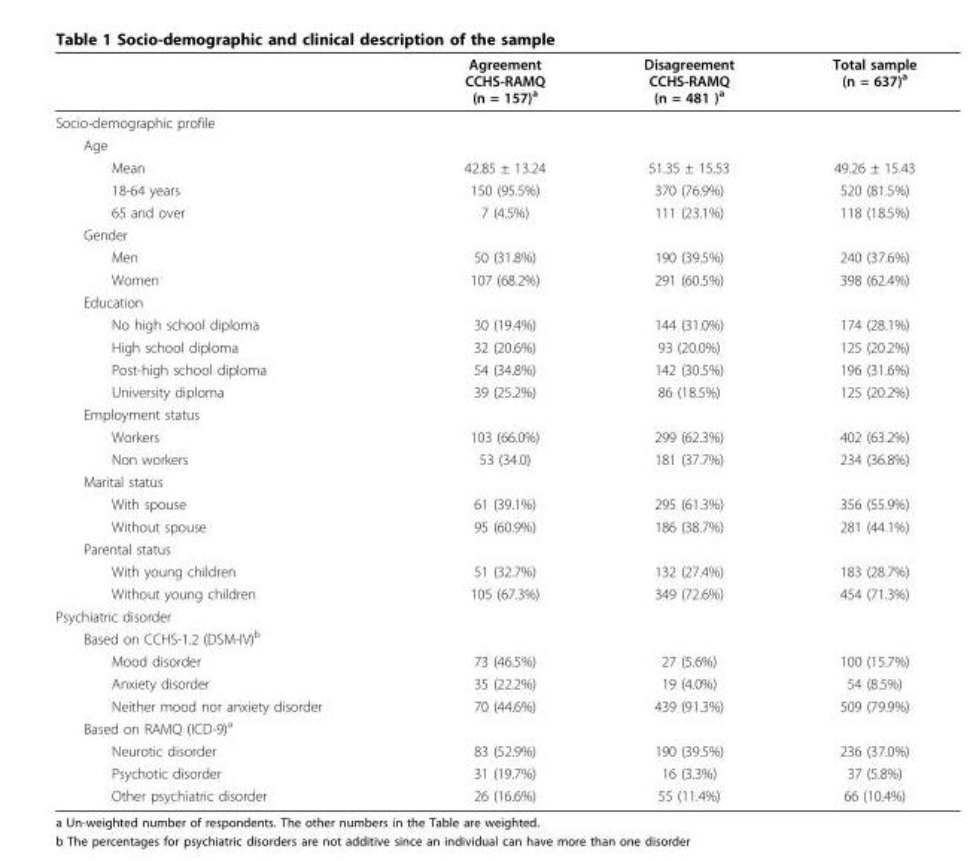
<table><thead><tr><td></td><td>Agreement CCHS-RAMQ (n = 157)<sup>a</sup></td><td>Disagreement CCHS-RAMQ (n = 481 )<sup>a</sup></td><td>Total sample (n = 637)<sup>a</sup></td></tr></thead><tbody><tr><td colspan="4">Socio-demographic profile</td></tr><tr><td colspan="4">Age</td></tr><tr><td>Mean</td><td>42.85 ± 13.24</td><td>51.35 ± 15.53</td><td>49.26 ± 15.43</td></tr><tr><td>18-64 years</td><td>150 (95.5%)</td><td>370 (76.9%)</td><td>520 (81.5%)</td></tr><tr><td>65 and over</td><td>7 (4.5%)</td><td>111 (23.1%)</td><td>118 (18.5%)</td></tr><tr><td colspan="4">Gender</td></tr><tr><td>Men</td><td>50 (31.8%)</td><td>190 (39.5%)</td><td>240 (37.6%)</td></tr><tr><td>Women</td><td>107 (68.2%)</td><td>291 (60.5%)</td><td>398 (62.4%)</td></tr><tr><td colspan="4">Education</td></tr><tr><td>No high school diploma</td><td>30 (19.4%)</td><td>144 (31.0%)</td><td>174 (28.1%)</td></tr><tr><td>High school diploma</td><td>32 (20.6%)</td><td>93 (20.0%)</td><td>125 (20.2%)</td></tr><tr><td>Post-high school diploma</td><td>54 (34.8%)</td><td>142 (30.5%)</td><td>196 (31.6%)</td></tr><tr><td>University diploma</td><td>39 (25.2%)</td><td>86 (18.5%)</td><td>125 (20.2%)</td></tr><tr><td colspan="4">Employment status</td></tr><tr><td>Workers</td><td>103 (66.0%)</td><td>299 (62.3%)</td><td>402 (63.2%)</td></tr><tr><td>Non workers</td><td>53 (34.0)</td><td>181 (37.7%)</td><td>234 (36.8%)</td></tr><tr><td colspan="4">Marital status</td></tr><tr><td>With spouse</td><td>61 (39.1%)</td><td>295 (61.3%)</td><td>356 (55.9%)</td></tr><tr><td>Without spouse</td><td>95 (60.9%)</td><td>186 (38.7%)</td><td>281 (44.1%)</td></tr><tr><td colspan="4">Parental status</td></tr><tr><td>With young children</td><td>51 (32.7%)</td><td>132 (27.4%)</td><td>183 (28.7%)</td></tr><tr><td>Without young children</td><td>105 (67.3%)</td><td>349 (72.6%)</td><td>454 (71.3%)</td></tr><tr><td colspan="4">Psychiatric disorder</td></tr><tr><td colspan="4">Based on CCHS-1.2 (DSM-IV)<sup>b</sup></td></tr><tr><td>Mood disorder</td><td>73 (46.5%)</td><td>27 (5.6%)</td><td>100 (15.7%)</td></tr><tr><td>Anxiety disorder</td><td>35 (22.2%)</td><td>19 (4.0%)</td><td>54 (8.5%)</td></tr><tr><td>Neither mood nor anxiety disorder</td><td>70 (44.6%)</td><td>439 (91.3%)</td><td>509 (79.9%)</td></tr><tr><td colspan="4">Based on RAMQ (ICD-9)<sup>a</sup></td></tr><tr><td>Neurotic disorder</td><td>83 (52.9%)</td><td>190 (39.5%)</td><td>236 (37.0%)</td></tr><tr><td>Psychotic disorder</td><td>31 (19.7%)</td><td>16 (3.3%)</td><td>37 (5.8%)</td></tr><tr><td>Other psychiatric disorder</td><td>26 (16.6%)</td><td>55 (11.4%)</td><td>66 (10.4%)</td></tr></tbody></table>